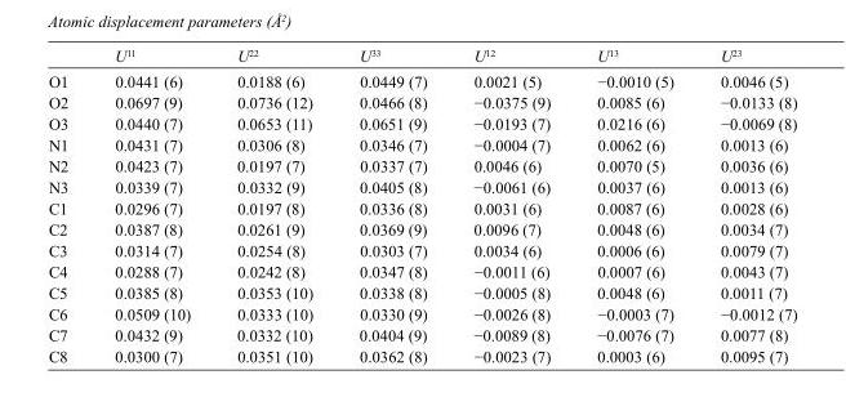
<table><thead><tr><td></td><td>U<sup>11</sup></td><td>U<sup>22</sup></td><td>U<sup>33</sup></td><td>U<sup>12</sup></td><td>U<sup>13</sup></td><td>U<sup>23</sup></td></tr></thead><tbody><tr><td>O1</td><td>0.0441 (6)</td><td>0.0188 (6)</td><td>0.0449 (7)</td><td>0.0021 (5)</td><td>−0.0010 (5)</td><td>0.0046 (5)</td></tr><tr><td>O2</td><td>0.0697 (9)</td><td>0.0736 (12)</td><td>0.0466 (8)</td><td>−0.0375 (9)</td><td>0.0085 (6)</td><td>−0.0133 (8)</td></tr><tr><td>O3</td><td>0.0440 (7)</td><td>0.0653 (11)</td><td>0.0651 (9)</td><td>−0.0193 (7)</td><td>0.0216 (6)</td><td>−0.0069 (8)</td></tr><tr><td>N1</td><td>0.0431 (7)</td><td>0.0306 (8)</td><td>0.0346 (7)</td><td>−0.0004 (7)</td><td>0.0062 (6)</td><td>0.0013 (6)</td></tr><tr><td>N2</td><td>0.0423 (7)</td><td>0.0197 (7)</td><td>0.0337 (7)</td><td>0.0046 (6)</td><td>0.0070 (5)</td><td>0.0036 (6)</td></tr><tr><td>N3</td><td>0.0339 (7)</td><td>0.0332 (9)</td><td>0.0405 (8)</td><td>−0.0061 (6)</td><td>0.0037 (6)</td><td>0.0013 (6)</td></tr><tr><td>C1</td><td>0.0296 (7)</td><td>0.0197 (8)</td><td>0.0336 (8)</td><td>0.0031 (6)</td><td>0.0087 (6)</td><td>0.0028 (6)</td></tr><tr><td>C2</td><td>0.0387 (8)</td><td>0.0261 (9)</td><td>0.0369 (9)</td><td>0.0096 (7)</td><td>0.0048 (6)</td><td>0.0034 (7)</td></tr><tr><td>C3</td><td>0.0314 (7)</td><td>0.0254 (8)</td><td>0.0303 (7)</td><td>0.0034 (6)</td><td>0.0006 (6)</td><td>0.0079 (7)</td></tr><tr><td>C4</td><td>0.0288 (7)</td><td>0.0242 (8)</td><td>0.0347 (8)</td><td>−0.0011 (6)</td><td>0.0007 (6)</td><td>0.0043 (7)</td></tr><tr><td>C5</td><td>0.0385 (8)</td><td>0.0353 (10)</td><td>0.0338 (8)</td><td>−0.0005 (8)</td><td>0.0048 (6)</td><td>0.0011 (7)</td></tr><tr><td>C6</td><td>0.0509 (10)</td><td>0.0333 (10)</td><td>0.0330 (9)</td><td>−0.0026 (8)</td><td>−0.0003 (7)</td><td>−0.0012 (7)</td></tr><tr><td>C7</td><td>0.0432 (9)</td><td>0.0332 (10)</td><td>0.0404 (9)</td><td>−0.0089 (8)</td><td>−0.0076 (7)</td><td>0.0077 (8)</td></tr><tr><td>C8</td><td>0.0300 (7)</td><td>0.0351 (10)</td><td>0.0362 (8)</td><td>−0.0023 (7)</td><td>0.0003 (6)</td><td>0.0095 (7)</td></tr></tbody></table>